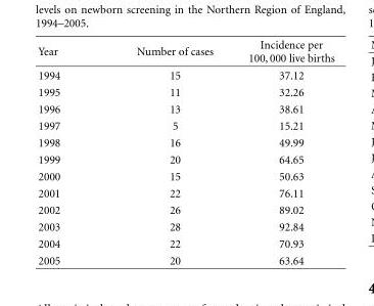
<table><thead><tr><td>Year</td><td>Number of cases</td><td>Incidence per 100,000 live births</td></tr></thead><tbody><tr><td>1994</td><td>15</td><td>37.12</td></tr><tr><td>1995</td><td>11</td><td>32.26</td></tr><tr><td>1996</td><td>13</td><td>38.61</td></tr><tr><td>1997</td><td>5</td><td>15.21</td></tr><tr><td>1998</td><td>16</td><td>49.99</td></tr><tr><td>1999</td><td>20</td><td>64.65</td></tr><tr><td>2000</td><td>15</td><td>50.63</td></tr><tr><td>2001</td><td>22</td><td>76.11</td></tr><tr><td>2002</td><td>26</td><td>89.02</td></tr><tr><td>2003</td><td>28</td><td>92.84</td></tr><tr><td>2004</td><td>22</td><td>70.93</td></tr><tr><td>2005</td><td>20</td><td>63.64</td></tr></tbody></table>